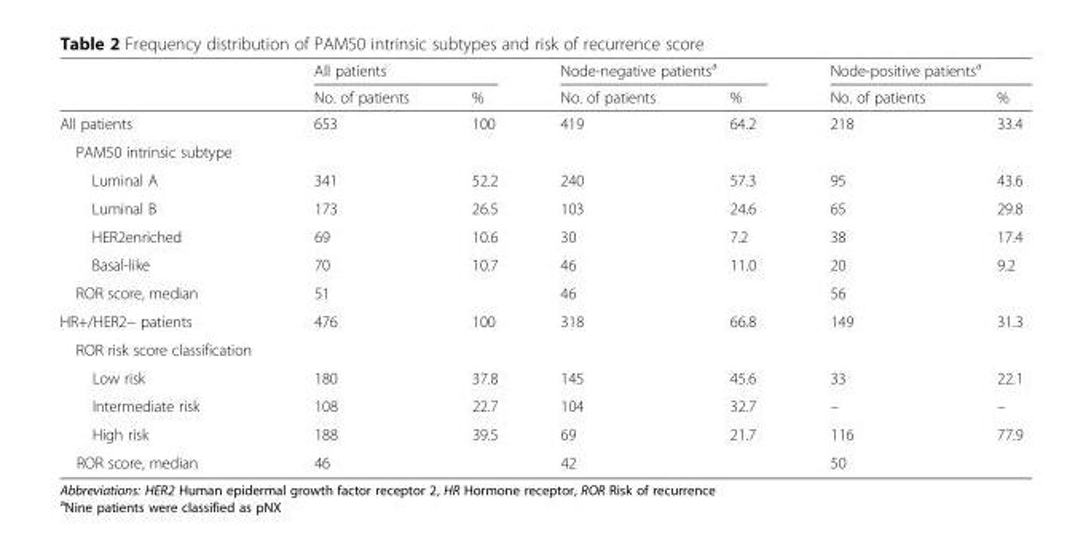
<table><thead><tr><td rowspan="2"></td><td colspan="2">All patients</td><td colspan="2">Node-negative patients<sup>a</sup></td><td colspan="2">Node-positive patients<sup>a</sup></td></tr><tr><td>No. of patients</td><td>%</td><td>No. of patients</td><td>%</td><td>No. of patients</td><td>%</td></tr></thead><tbody><tr><td>All patients</td><td>653</td><td>100</td><td>419</td><td>64.2</td><td>218</td><td>33.4</td></tr><tr><td colspan="7">PAM50 intrinsic subtype</td></tr><tr><td>Luminal A</td><td>341</td><td>52.2</td><td>240</td><td>57.3</td><td>95</td><td>43.6</td></tr><tr><td>Luminal B</td><td>173</td><td>26.5</td><td>103</td><td>24.6</td><td>65</td><td>29.8</td></tr><tr><td>HER2enriched</td><td>69</td><td>10.6</td><td>30</td><td>7.2</td><td>38</td><td>17.4</td></tr><tr><td>Basal-like</td><td>70</td><td>10.7</td><td>46</td><td>11.0</td><td>20</td><td>9.2</td></tr><tr><td>ROR score, median</td><td>51</td><td></td><td>46</td><td></td><td>56</td><td></td></tr><tr><td>HR+/HER2− patients</td><td>476</td><td>100</td><td>318</td><td>66.8</td><td>149</td><td>31.3</td></tr><tr><td colspan="7">ROR risk score classification</td></tr><tr><td>Low risk</td><td>180</td><td>37.8</td><td>145</td><td>45.6</td><td>33</td><td>22.1</td></tr><tr><td>Intermediate risk</td><td>108</td><td>22.7</td><td>104</td><td>32.7</td><td>–</td><td>–</td></tr><tr><td>High risk</td><td>188</td><td>39.5</td><td>69</td><td>21.7</td><td>116</td><td>77.9</td></tr><tr><td>ROR score, median</td><td>46</td><td></td><td>42</td><td></td><td>50</td><td></td></tr></tbody></table>